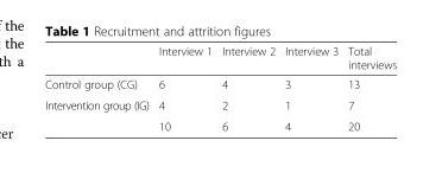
<table><thead><tr><td></td><td>Interview 1</td><td>Interview 2</td><td>Interview 3</td><td>Total interviews</td></tr></thead><tbody><tr><td>Control group (CG)</td><td>6</td><td>4</td><td>3</td><td>13</td></tr><tr><td rowspan="2">Intervention group (IG)</td><td>4</td><td>2</td><td>1</td><td>7</td></tr><tr><td>10</td><td>6</td><td>4</td><td>20</td></tr></tbody></table>